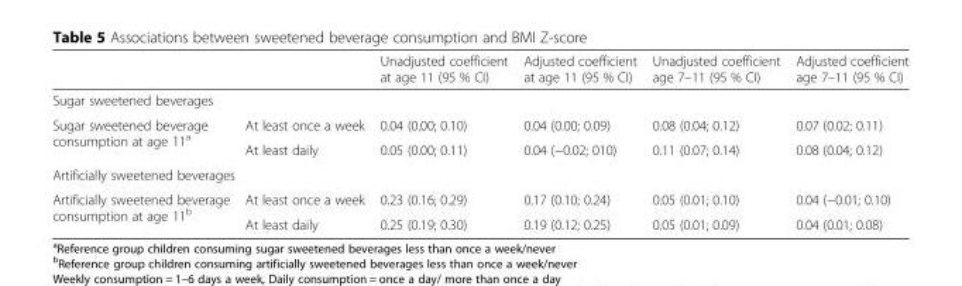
<table><thead><tr><td></td><td></td><td>Unadjusted coefficient at age 11 (95 % CI)</td><td>Adjusted coefficient at age 11 (95 % CI)</td><td>Unadjusted coefficient age 7–11 (95 % CI)</td><td>Adjusted coefficient age 7–11 (95 % CI)</td></tr></thead><tbody><tr><td colspan="6">Sugar sweetened beverages</td></tr><tr><td rowspan="2">Sugar sweetened beverage consumption at age 11<sup>a</sup></td><td>At least once a week</td><td>0.04 (0.00; 0.10)</td><td>0.04 (0.00; 0.09)</td><td>0.08 (0.04; 0.12)</td><td>0.07 (0.02; 0.11)</td></tr><tr><td>At least daily</td><td>0.05 (0.00; 0.11)</td><td>0.04 (−0.02; 010)</td><td>0.11 (0.07; 0.14)</td><td>0.08 (0.04; 0.12)</td></tr><tr><td colspan="6">Artificially sweetened beverages</td></tr><tr><td rowspan="2">Artificially sweetened beverage consumption at age 11<sup>b</sup></td><td>At least once a week</td><td>0.23 (0.16; 0.29)</td><td>0.17 (0.10; 0.24)</td><td>0.05 (0.01; 0.10)</td><td>0.04 (−0.01; 0.10)</td></tr><tr><td>At least daily</td><td>0.25 (0.19; 0.30)</td><td>0.19 (0.12; 0.25)</td><td>0.05 (0.01; 0.09)</td><td>0.04 (0.01; 0.08)</td></tr></tbody></table>